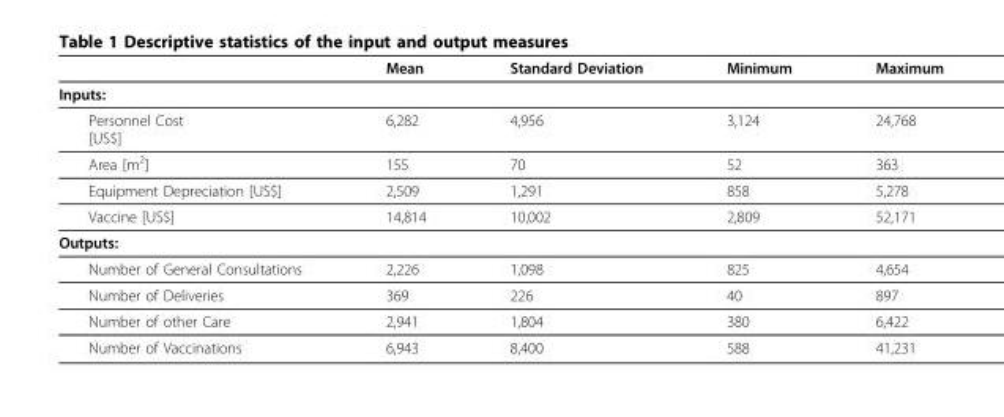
<table><thead><tr><td></td><td>Mean</td><td>Standard Deviation</td><td>Minimum</td><td>Maximum</td></tr></thead><tbody><tr><td colspan="5">Inputs:</td></tr><tr><td>Personnel Cost [US$]</td><td>6,282</td><td>4,956</td><td>3,124</td><td>24,768</td></tr><tr><td>Area [m<sup>2</sup>]</td><td>155</td><td>70</td><td>52</td><td>363</td></tr><tr><td>Equipment Depreciation [US$]</td><td>2,509</td><td>1,291</td><td>858</td><td>5,278</td></tr><tr><td>Vaccine [US$]</td><td>14,814</td><td>10,002</td><td>2,809</td><td>52,171</td></tr><tr><td colspan="5">Outputs:</td></tr><tr><td>Number of General Consultations</td><td>2,226</td><td>1,098</td><td>825</td><td>4,654</td></tr><tr><td>Number of Deliveries</td><td>369</td><td>226</td><td>40</td><td>897</td></tr><tr><td>Number of other Care</td><td>2,941</td><td>1,804</td><td>380</td><td>6,422</td></tr><tr><td>Number of Vaccinations</td><td>6,943</td><td>8,400</td><td>588</td><td>41,231</td></tr></tbody></table>